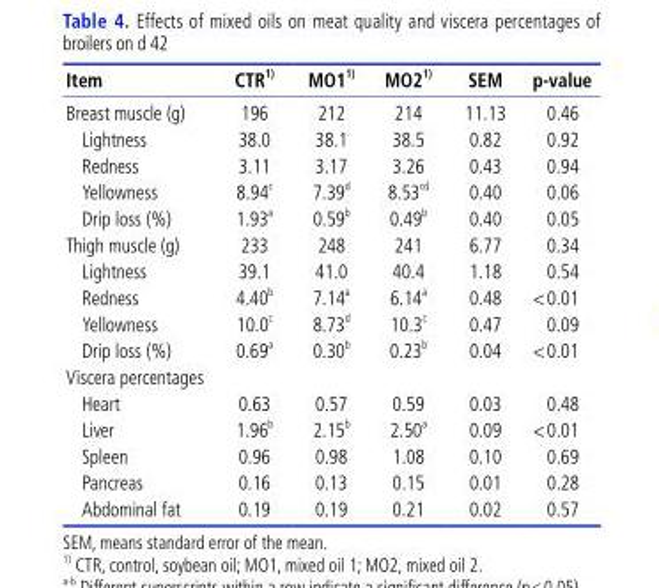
<table><thead><tr><td>Item</td><td>CTR 1)</td><td>MO1 1)</td><td>MO2 1)</td><td>SEM</td><td>p-value</td></tr></thead><tbody><tr><td>Breast muscle (g)</td><td>196</td><td>212</td><td>214</td><td>11.13</td><td>0.46</td></tr><tr><td>Lightness</td><td>38.0</td><td>38.1</td><td>38.5</td><td>0.82</td><td>0.92</td></tr><tr><td>Redness</td><td>3.11</td><td>3.17</td><td>3.26</td><td>0.43</td><td>0.94</td></tr><tr><td>Yellowness</td><td>8.94 <sup>c</sup></td><td>7.39 <sup>d</sup></td><td>8.53 <sup>cd</sup></td><td>0.40</td><td>0.06</td></tr><tr><td>Drip loss (%)</td><td>1.93 <sup>a</sup></td><td>0.59 <sup>b</sup></td><td>0.49 <sup>b</sup></td><td>0.40</td><td>0.05</td></tr><tr><td>Thigh muscle (g)</td><td>233</td><td>248</td><td>241</td><td>6.77</td><td>0.34</td></tr><tr><td>Lightness</td><td>39.1</td><td>41.0</td><td>40.4</td><td>1.18</td><td>0.54</td></tr><tr><td>Redness</td><td>4.40 <sup>b</sup></td><td>7.14 <sup>a</sup></td><td>6.14 <sup>a</sup></td><td>0.48</td><td>&lt;0.01</td></tr><tr><td>Yellowness</td><td>10.0 <sup>c</sup></td><td>8.73 <sup>d</sup></td><td>10.3 <sup>c</sup></td><td>0.47</td><td>0.09</td></tr><tr><td>Drip loss (%)</td><td>0.69 <sup>a</sup></td><td>0.30 <sup>b</sup></td><td>0.23 <sup>b</sup></td><td>0.04</td><td>&lt;0.01</td></tr><tr><td colspan="6">Viscera percentages</td></tr><tr><td>Heart</td><td>0.63</td><td>0.57</td><td>0.59</td><td>0.03</td><td>0.48</td></tr><tr><td>Liver</td><td>1.96 <sup>b</sup></td><td>2.15 <sup>b</sup></td><td>2.50 <sup>a</sup></td><td>0.09</td><td>&lt;0.01</td></tr><tr><td>Spleen</td><td>0.96</td><td>0.98</td><td>1.08</td><td>0.10</td><td>0.69</td></tr><tr><td>Pancreas</td><td>0.16</td><td>0.13</td><td>0.15</td><td>0.01</td><td>0.28</td></tr><tr><td>Abdominal fat</td><td>0.19</td><td>0.19</td><td>0.21</td><td>0.02</td><td>0.57</td></tr></tbody></table>